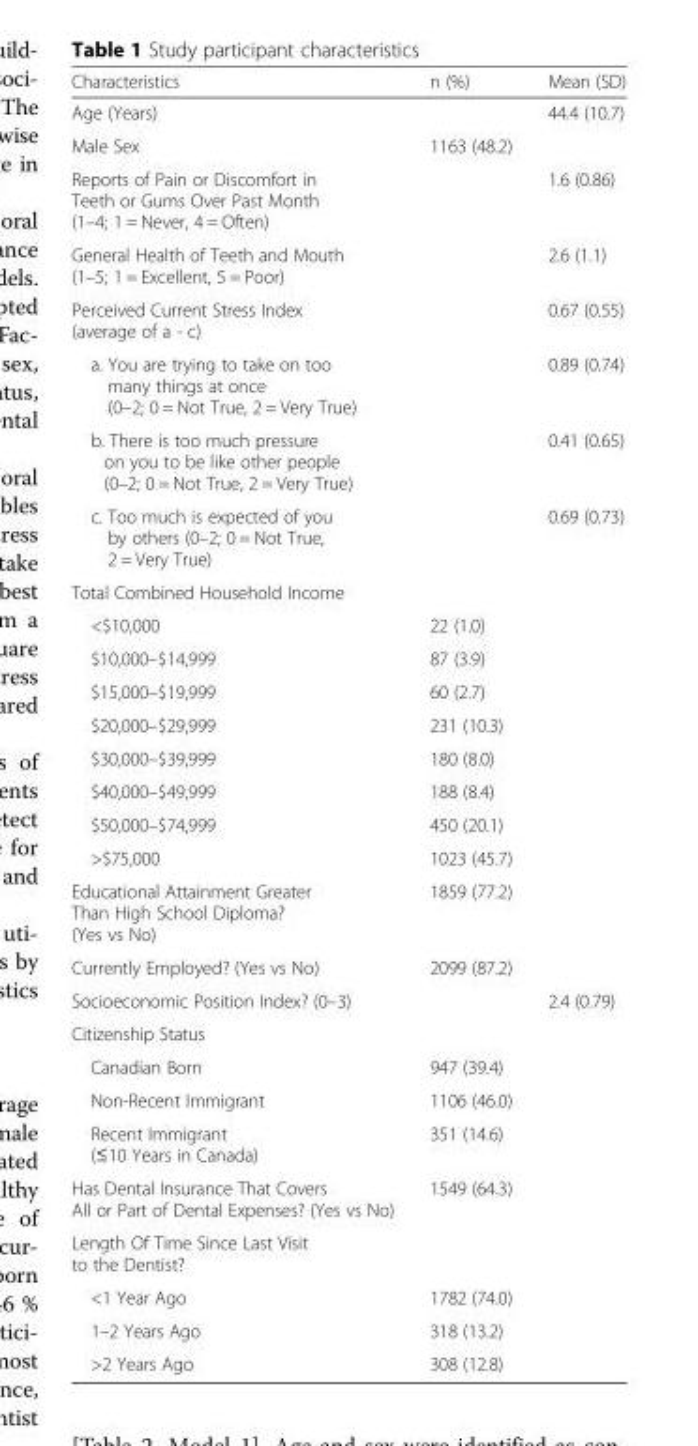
<table><thead><tr><td>Characteristics</td><td>n (%)</td><td>Mean (SD)</td></tr></thead><tbody><tr><td>Age (Years)</td><td></td><td>44.4 (10.7)</td></tr><tr><td>Male Sex</td><td>1163 (48.2)</td><td></td></tr><tr><td>Reports of Pain or Discomfort in Teeth or Gums Over Past Month (1–4; 1 = Never, 4 = Often)</td><td></td><td>1.6 (0.86)</td></tr><tr><td>General Health of Teeth and Mouth (1–5; 1 = Excellent, 5 = Poor)</td><td></td><td>2.6 (1.1)</td></tr><tr><td>Perceived Current Stress Index (average of a - c)</td><td></td><td>0.67 (0.55)</td></tr><tr><td>a. You are trying to take on too many things at once (0–2; 0 = Not True, 2 = Very True)</td><td></td><td>0.89 (0.74)</td></tr><tr><td>b. There is too much pressure on you to be like other people (0–2; 0 = Not True, 2 = Very True)</td><td></td><td>0.41 (0.65)</td></tr><tr><td>c. Too much is expected of you by others (0–2; 0 = Not True, 2 = Very True)</td><td></td><td>0.69 (0.73)</td></tr><tr><td colspan="3">Total Combined Household Income</td></tr><tr><td>&lt;$10,000</td><td>22 (1.0)</td><td></td></tr><tr><td>$10,000–$14,999</td><td>87 (3.9)</td><td></td></tr><tr><td>$15,000–$19,999</td><td>60 (2.7)</td><td></td></tr><tr><td>$20,000–$29,999</td><td>231 (10.3)</td><td></td></tr><tr><td>$30,000–$39,999</td><td>180 (8.0)</td><td></td></tr><tr><td>$40,000–$49,999</td><td>188 (8.4)</td><td></td></tr><tr><td>$50,000–$74,999</td><td>450 (20.1)</td><td></td></tr><tr><td>&gt;$75,000</td><td>1023 (45.7)</td><td></td></tr><tr><td>Educational Attainment Greater Than High School Diploma? (Yes vs No)</td><td>1859 (77.2)</td><td></td></tr><tr><td>Currently Employed? (Yes vs No)</td><td>2099 (87.2)</td><td></td></tr><tr><td>Socioeconomic Position Index? (0–3)</td><td></td><td>2.4 (0.79)</td></tr><tr><td colspan="3">Citizenship Status</td></tr><tr><td>Canadian Born</td><td>947 (39.4)</td><td></td></tr><tr><td>Non-Recent Immigrant</td><td>1106 (46.0)</td><td></td></tr><tr><td>Recent Immigrant (≤10 Years in Canada)</td><td>351 (14.6)</td><td></td></tr><tr><td>Has Dental Insurance That Covers All or Part of Dental Expenses? (Yes vs No)</td><td>1549 (64.3)</td><td></td></tr><tr><td colspan="3">Length Of Time Since Last Visit to the Dentist?</td></tr><tr><td>&lt;1 Year Ago</td><td>1782 (74.0)</td><td></td></tr><tr><td>1–2 Years Ago</td><td>318 (13.2)</td><td></td></tr><tr><td>&gt;2 Years Ago</td><td>308 (12.8)</td><td></td></tr></tbody></table>